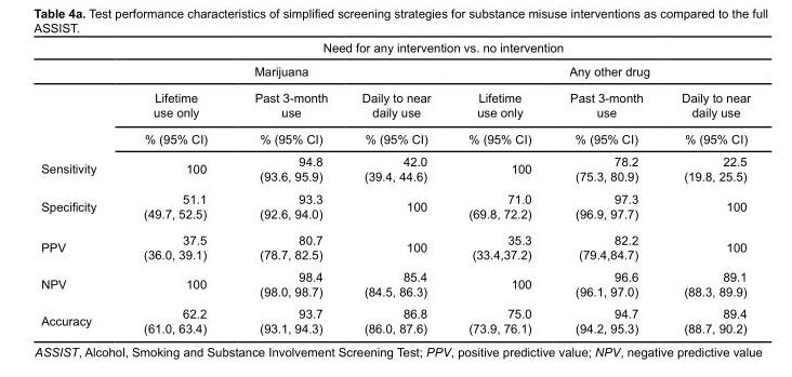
<table><thead><tr><td rowspan="4"></td><td colspan="6">Need for any intervention vs. no intervention</td></tr><tr><td colspan="3">Marijuana</td><td colspan="3">Any other drug</td></tr><tr><td rowspan="2">Lifetime use only % (95% CI)</td><td rowspan="2">Past 3-month use % (95% CI)</td><td rowspan="2">Daily to near daily use % (95% CI)</td><td rowspan="2">Lifetime use only % (95% CI)</td><td rowspan="2">Past 3-month use % (95% CI)</td><td rowspan="2">Daily to near daily use % (95% CI)</td></tr><tr></tr></thead><tbody><tr><td>Sensitivity</td><td>100</td><td>94.8 (93.6, 95.9)</td><td>42.0 (39.4, 44.6)</td><td>100</td><td>78.2 (75.3, 80.9)</td><td>22.5 (19.8, 25.5)</td></tr><tr><td>Specificity</td><td>51.1 (49.7, 52.5)</td><td>93.3 (92.6, 94.0)</td><td>100</td><td>71.0 (69.8, 72.2)</td><td>97.3 (96.9, 97.7)</td><td>100</td></tr><tr><td>PPV</td><td>37.5 (36.0, 39.1)</td><td>80.7 (78.7, 82.5)</td><td>100</td><td>35.3 (33.4,37.2)</td><td>82.2 (79.4,84.7)</td><td>100</td></tr><tr><td>NPV</td><td>100</td><td>98.4 (98.0, 98.7)</td><td>85.4 (84.5, 86.3)</td><td>100</td><td>96.6 (96.1, 97.0)</td><td>89.1 (88.3, 89.9)</td></tr><tr><td>Accuracy</td><td>62.2 (61.0, 63.4)</td><td>93.7 (93.1, 94.3)</td><td>86.8 (86.0, 87.6)</td><td>75.0 (73.9, 76.1)</td><td>94.7 (94.2, 95.3)</td><td>89.4 (88.7, 90.2)</td></tr></tbody></table>